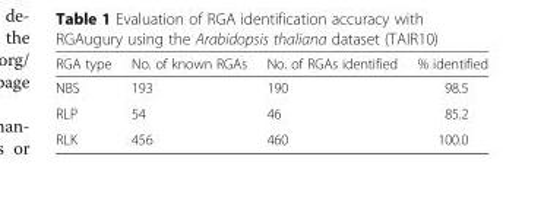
<table><thead><tr><td>RGA type</td><td>No. of known RGAs</td><td>No. of RGAs identified</td><td>% identified</td></tr></thead><tbody><tr><td>NBS</td><td>193</td><td>190</td><td>98.5</td></tr><tr><td>RLP</td><td>54</td><td>46</td><td>85.2</td></tr><tr><td>RLK</td><td>456</td><td>460</td><td>100.0</td></tr></tbody></table>